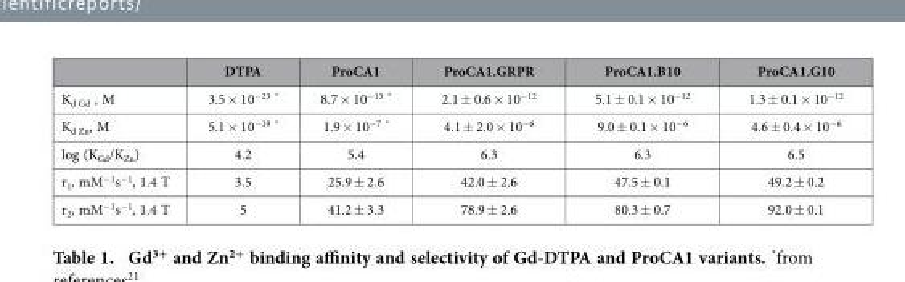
<table><thead><tr><td></td><td>DTPA</td><td>ProCA1</td><td>ProCA1.GRPR</td><td>ProCA1.B10</td><td>ProCA1.G10</td></tr></thead><tbody><tr><td>K<sub>d Gd</sub> , M</td><td>3.5 × 10<sup>−23</sup> *</td><td>8.7 × 10<sup>−13</sup> *</td><td>2.1 ± 0.6 × 10<sup>−12</sup></td><td>5.1 ± 0.1 × 10<sup>−12</sup></td><td>1.3 ± 0.1 × 10<sup>−12</sup></td></tr><tr><td>K<sub>d Zn</sub>, M</td><td>5.1 × 10<sup>−19</sup> *</td><td>1.9 × 10<sup>−7</sup> *</td><td>4.1 ± 2.0 × 10<sup>−6</sup></td><td>9.0 ± 0.1 × 10<sup>−6</sup></td><td>4.6 ± 0.4 × 10<sup>−6</sup></td></tr><tr><td>log (K<sub>Gd</sub>/K<sub>Zn</sub>)</td><td>4.2</td><td>5.4</td><td>6.3</td><td>6.3</td><td>6.5</td></tr><tr><td>r<sub>1</sub>, mM<sup>−1</sup>s<sup>−1</sup>, 1.4 T</td><td>3.5</td><td>25.9 ± 2.6</td><td>42.0 ± 2.6</td><td>47.5 ± 0.1</td><td>49.2 ± 0.2</td></tr><tr><td>r<sub>2</sub>, mM<sup>−1</sup>s<sup>−1</sup>, 1.4 T</td><td>5</td><td>41.2 ± 3.3</td><td>78.9 ± 2.6</td><td>80.3 ± 0.7</td><td>92.0 ± 0.1</td></tr></tbody></table>